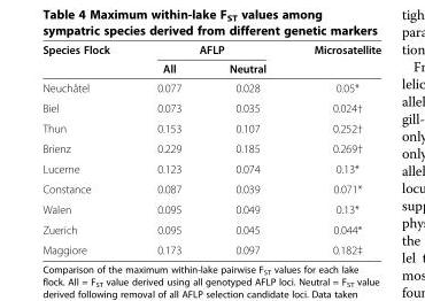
<table><thead><tr><td rowspan="2">Species Flock</td><td colspan="2">AFLP</td><td rowspan="2">Microsatellite</td></tr><tr><td>All</td><td>Neutral</td></tr></thead><tbody><tr><td>Neuchâtel</td><td>0.077</td><td>0.028</td><td>0.05*</td></tr><tr><td>Biel</td><td>0.073</td><td>0.035</td><td>0.024†</td></tr><tr><td>Thun</td><td>0.153</td><td>0.107</td><td>0.252†</td></tr><tr><td>Brienz</td><td>0.229</td><td>0.185</td><td>0.269†</td></tr><tr><td>Lucerne</td><td>0.123</td><td>0.074</td><td>0.13*</td></tr><tr><td>Constance</td><td>0.087</td><td>0.039</td><td>0.071*</td></tr><tr><td>Walen</td><td>0.095</td><td>0.049</td><td>0.13*</td></tr><tr><td>Zuerich</td><td>0.095</td><td>0.045</td><td>0.044*</td></tr><tr><td>Maggiore</td><td>0.173</td><td>0.097</td><td>0.182‡</td></tr></tbody></table>